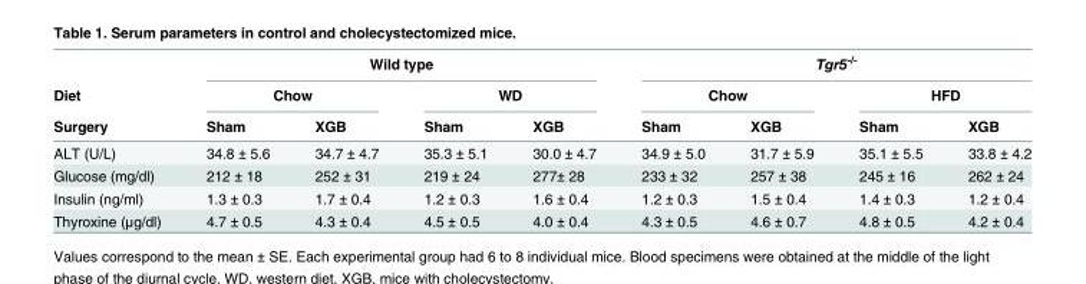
<table><thead><tr><td rowspan="3">Diet Surgery</td><td colspan="4">Wild type</td><td colspan="4">Tgr5<sup>-/-</sup></td></tr><tr><td colspan="2">Chow</td><td colspan="2">WD</td><td colspan="2">Chow</td><td colspan="2">HFD</td></tr><tr><td>Sham</td><td>XGB</td><td>Sham</td><td>XGB</td><td>Sham</td><td>XGB</td><td>Sham</td><td>XGB</td></tr></thead><tbody><tr><td>ALT (U/L)</td><td>34.8 ± 5.6</td><td>34.7 ± 4.7</td><td>35.3 ± 5.1</td><td>30.0 ± 4.7</td><td>34.9 ± 5.0</td><td>31.7 ± 5.9</td><td>35.1 ± 5.5</td><td>33.8 ± 4.2</td></tr><tr><td>Glucose (mg/dl)</td><td>212 ± 18</td><td>252 ± 31</td><td>219 ± 24</td><td>277± 28</td><td>233 ± 32</td><td>257 ± 38</td><td>245 ± 16</td><td>262 ± 24</td></tr><tr><td>Insulin (ng/ml)</td><td>1.3 ± 0.3</td><td>1.7 ± 0.4</td><td>1.2 ± 0.3</td><td>1.6 ± 0.4</td><td>1.2 ± 0.3</td><td>1.5 ± 0.4</td><td>1.4 ± 0.3</td><td>1.2 ± 0.4</td></tr><tr><td>Thyroxine (μg/dl)</td><td>4.7 ± 0.5</td><td>4.3 ± 0.4</td><td>4.5 ± 0.5</td><td>4.0 ± 0.4</td><td>4.3 ± 0.5</td><td>4.6 ± 0.7</td><td>4.8 ± 0.5</td><td>4.2 ± 0.4</td></tr></tbody></table>